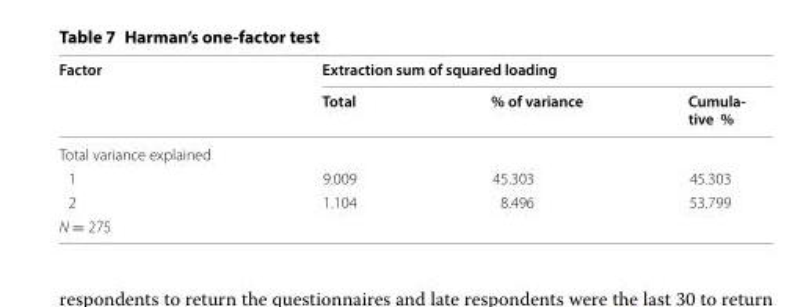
<table><thead><tr><td rowspan="2">Factor</td><td colspan="3">Extraction sum of squared loading</td></tr><tr><td>Total</td><td>% of variance</td><td>Cumula- tive %</td></tr></thead><tbody><tr><td colspan="4">Total variance explained</td></tr><tr><td>1</td><td>9.009</td><td>45.303</td><td>45.303</td></tr><tr><td>2</td><td>1.104</td><td>8.496</td><td>53.799</td></tr><tr><td>N = 275</td><td></td><td></td><td></td></tr></tbody></table>